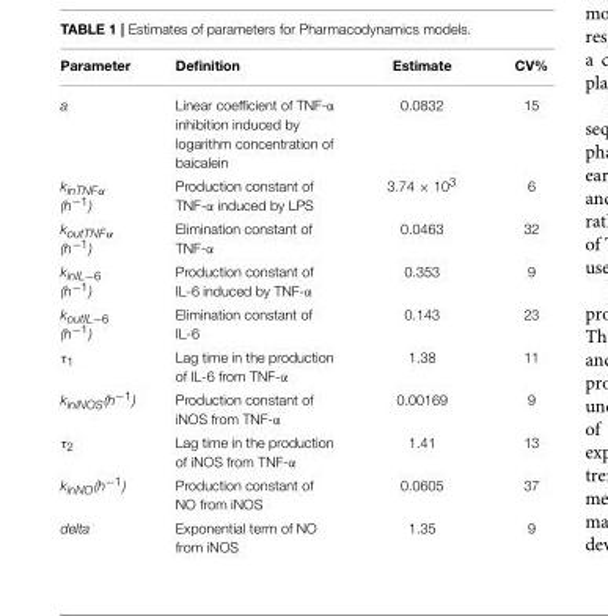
<table><thead><tr><td>Parameter</td><td>Definition</td><td>Estimate</td><td>CV%</td></tr></thead><tbody><tr><td>a</td><td>Linear coefficient of TNF-α inhibition induced by logarithm concentration of baicalein</td><td>0.0832</td><td>15</td></tr><tr><td>kinTNFα (h−1)</td><td>Production constant of TNF-α induced by LPS</td><td>3.74 × 10<sup>3</sup></td><td>6</td></tr><tr><td>koutTNFα (h−1)</td><td>Elimination constant of TNF-α</td><td>0.0463</td><td>32</td></tr><tr><td>kinIL−6 (h−1)</td><td>Production constant of IL-6 induced by TNF-α</td><td>0.353</td><td>9</td></tr><tr><td>koutIL−6 (h−1)</td><td>Elimination constant of IL-6</td><td>0.143</td><td>23</td></tr><tr><td>τ<sub>1</sub></td><td>Lag time in the production of IL-6 from TNF-α</td><td>1.38</td><td>11</td></tr><tr><td>kiniNOS(h−1)</td><td>Production constant of iNOS from TNF-α</td><td>0.00169</td><td>9</td></tr><tr><td>τ<sub>2</sub></td><td>Lag time in the production of iNOS from TNF-α</td><td>1.41</td><td>13</td></tr><tr><td>kinNO(h−1)</td><td>Production constant of NO from iNOS</td><td>0.0605</td><td>37</td></tr><tr><td>delta</td><td>Exponential term of NO from iNOS</td><td>1.35</td><td>9</td></tr></tbody></table>